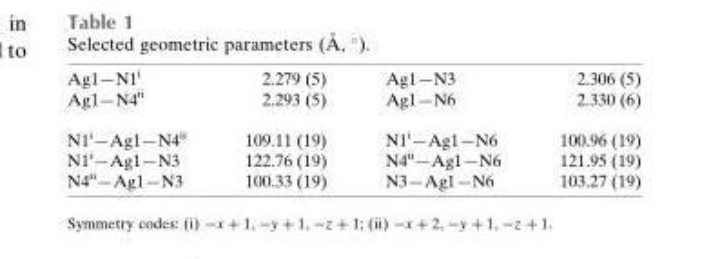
<table><tbody><tr><td>Ag1—N1<sup>i</sup></td><td>2.279 (5)</td><td>Ag1—N3</td><td>2.306 (5)</td></tr><tr><td>Ag1—N4<sup>ii</sup></td><td>2.293 (5)</td><td>Ag1—N6</td><td>2.330 (6)</td></tr><tr><td>N1<sup>i</sup>—Ag1—N4<sup>ii</sup></td><td>109.11 (19)</td><td>N1<sup>i</sup>—Ag1—N6</td><td>100.96 (19)</td></tr><tr><td>N1<sup>i</sup>—Ag1—N3</td><td>122.76 (19)</td><td>N4<sup>ii</sup>—Ag1—N6</td><td>121.95 (19)</td></tr><tr><td>N4<sup>ii</sup>—Ag1—N3</td><td>100.33 (19)</td><td>N3—Ag1—N6</td><td>103.27 (19)</td></tr></tbody></table>